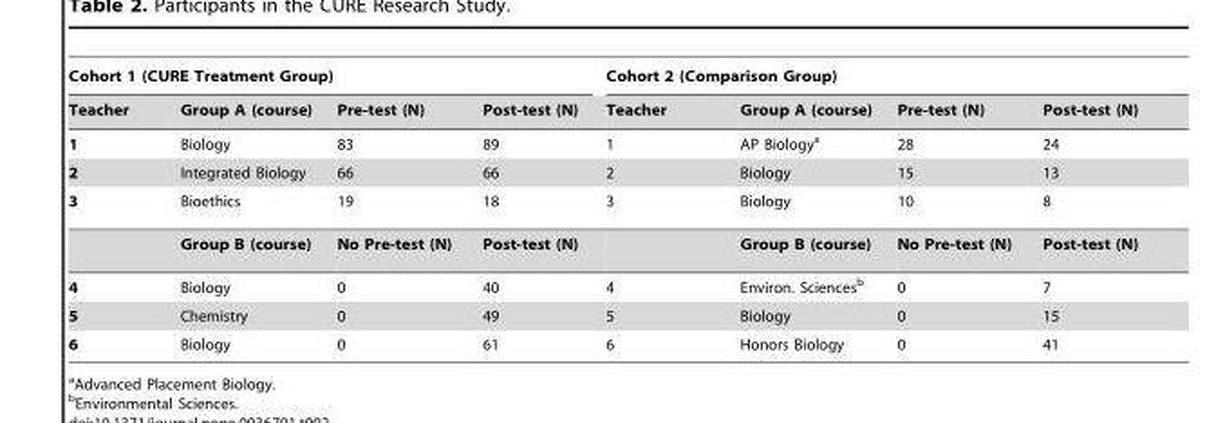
<table><thead><tr><td colspan="4">Cohort 1 (CURE Treatment Group)</td><td colspan="4">Cohort 2 (Comparison Group)</td></tr><tr><td>Teacher</td><td>Group A (course)</td><td>Pre-test (N)</td><td>Post-test (N)</td><td>Teacher</td><td>Group A (course)</td><td>Pre-test (N)</td><td>Post-test (N)</td></tr></thead><tbody><tr><td>1</td><td>Biology</td><td>83</td><td>89</td><td>1</td><td>AP Biology<sup>a</sup></td><td>28</td><td>24</td></tr><tr><td>2</td><td>Integrated Biology</td><td>66</td><td>66</td><td>2</td><td>Biology</td><td>15</td><td>13</td></tr><tr><td rowspan="2">3</td><td>Bioethics</td><td>19</td><td>18</td><td>3</td><td>Biology</td><td>10</td><td>8</td></tr><tr><td>Group B (course)</td><td>No Pre-test (N)</td><td>Post-test (N)</td><td></td><td>Group B (course)</td><td>No Pre-test (N)</td><td>Post-test (N)</td></tr><tr><td>4</td><td>Biology</td><td>0</td><td>40</td><td>4</td><td>Environ. Sciences<sup>b</sup></td><td>0</td><td>7</td></tr><tr><td>5</td><td>Chemistry</td><td>0</td><td>49</td><td>5</td><td>Biology</td><td>0</td><td>15</td></tr><tr><td>6</td><td>Biology</td><td>0</td><td>61</td><td>6</td><td>Honors Biology</td><td>0</td><td>41</td></tr></tbody></table>